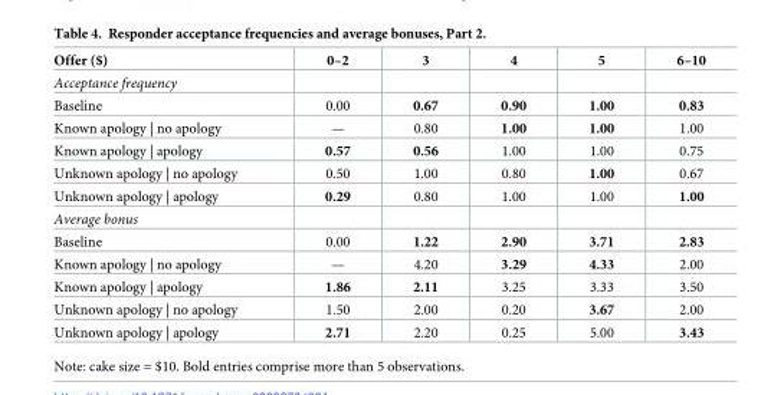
<table><thead><tr><td>Offer ($)</td><td>0–2</td><td>3</td><td>4</td><td>5</td><td>6–10</td></tr></thead><tbody><tr><td colspan="6">Acceptance frequency</td></tr><tr><td>Baseline</td><td>0.00</td><td>0.67</td><td>0.90</td><td>1.00</td><td>0.83</td></tr><tr><td>Known apology | no apology</td><td>—</td><td>0.80</td><td>1.00</td><td>1.00</td><td>1.00</td></tr><tr><td>Known apology | apology</td><td>0.57</td><td>0.56</td><td>1.00</td><td>1.00</td><td>0.75</td></tr><tr><td>Unknown apology | no apology</td><td>0.50</td><td>1.00</td><td>0.80</td><td>1.00</td><td>0.67</td></tr><tr><td>Unknown apology | apology</td><td>0.29</td><td>0.80</td><td>1.00</td><td>1.00</td><td>1.00</td></tr><tr><td colspan="6">Average bonus</td></tr><tr><td>Baseline</td><td>0.00</td><td>1.22</td><td>2.90</td><td>3.71</td><td>2.83</td></tr><tr><td>Known apology | no apology</td><td>—</td><td>4.20</td><td>3.29</td><td>4.33</td><td>2.00</td></tr><tr><td>Known apology | apology</td><td>1.86</td><td>2.11</td><td>3.25</td><td>3.33</td><td>3.50</td></tr><tr><td>Unknown apology | no apology</td><td>1.50</td><td>2.00</td><td>0.20</td><td>3.67</td><td>2.00</td></tr><tr><td>Unknown apology | apology</td><td>2.71</td><td>2.20</td><td>0.25</td><td>5.00</td><td>3.43</td></tr></tbody></table>